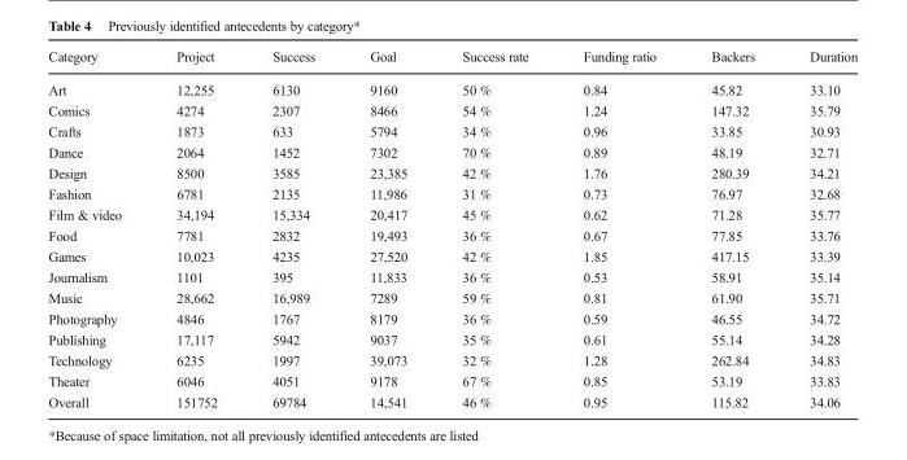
<table><thead><tr><td>Category</td><td>Project</td><td>Success</td><td>Goal</td><td>Success rate</td><td>Funding ratio</td><td>Backers</td><td>Duration</td></tr></thead><tbody><tr><td>Art</td><td>12,255</td><td>6130</td><td>9160</td><td>50 %</td><td>0.84</td><td>45.82</td><td>33.10</td></tr><tr><td>Comics</td><td>4274</td><td>2307</td><td>8466</td><td>54 %</td><td>1.24</td><td>147.32</td><td>35.79</td></tr><tr><td>Crafts</td><td>1873</td><td>633</td><td>5794</td><td>34 %</td><td>0.96</td><td>33.85</td><td>30.93</td></tr><tr><td>Dance</td><td>2064</td><td>1452</td><td>7302</td><td>70 %</td><td>0.89</td><td>48.19</td><td>32.71</td></tr><tr><td>Design</td><td>8500</td><td>3585</td><td>23,385</td><td>42 %</td><td>1.76</td><td>280.39</td><td>34.21</td></tr><tr><td>Fashion</td><td>6781</td><td>2135</td><td>11,986</td><td>31 %</td><td>0.73</td><td>76.97</td><td>32.68</td></tr><tr><td>Film &amp; video</td><td>34,194</td><td>15,334</td><td>20,417</td><td>45 %</td><td>0.62</td><td>71.28</td><td>35.77</td></tr><tr><td>Food</td><td>7781</td><td>2832</td><td>19,493</td><td>36 %</td><td>0.67</td><td>77.85</td><td>33.76</td></tr><tr><td>Games</td><td>10,023</td><td>4235</td><td>27,520</td><td>42 %</td><td>1.85</td><td>417.15</td><td>33.39</td></tr><tr><td>Journalism</td><td>1101</td><td>395</td><td>11,833</td><td>36 %</td><td>0.53</td><td>58.91</td><td>35.14</td></tr><tr><td>Music</td><td>28,662</td><td>16,989</td><td>7289</td><td>59 %</td><td>0.81</td><td>61.90</td><td>35.71</td></tr><tr><td>Photography</td><td>4846</td><td>1767</td><td>8179</td><td>36 %</td><td>0.59</td><td>46.55</td><td>34.72</td></tr><tr><td>Publishing</td><td>17,117</td><td>5942</td><td>9037</td><td>35 %</td><td>0.61</td><td>55.14</td><td>34.28</td></tr><tr><td>Technology</td><td>6235</td><td>1997</td><td>39,073</td><td>32 %</td><td>1.28</td><td>262.84</td><td>34.83</td></tr><tr><td>Theater</td><td>6046</td><td>4051</td><td>9178</td><td>67 %</td><td>0.85</td><td>53.19</td><td>33.83</td></tr><tr><td>Overall</td><td>151752</td><td>69784</td><td>14,541</td><td>46 %</td><td>0.95</td><td>115.82</td><td>34.06</td></tr></tbody></table>